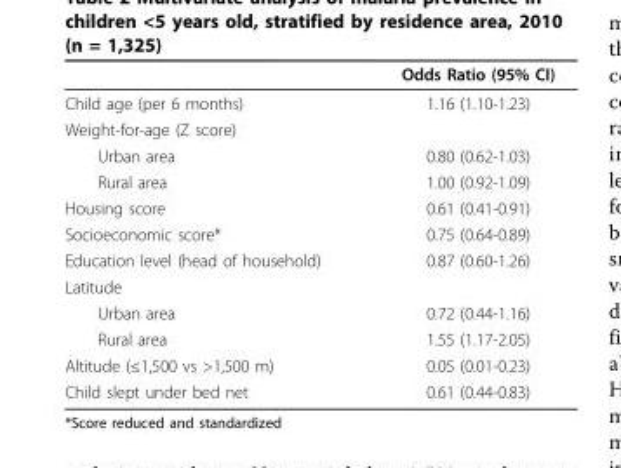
<table><thead><tr><td></td><td>Odds Ratio (95% CI)</td></tr></thead><tbody><tr><td>Child age (per 6 months)</td><td>1.16 (1.10-1.23)</td></tr><tr><td colspan="2">Weight-for-age (Z score)</td></tr><tr><td>Urban area</td><td>0.80 (0.62-1.03)</td></tr><tr><td>Rural area</td><td>1.00 (0.92-1.09)</td></tr><tr><td>Housing score</td><td>0.61 (0.41-0.91)</td></tr><tr><td>Socioeconomic score*</td><td>0.75 (0.64-0.89)</td></tr><tr><td>Education level (head of household)</td><td>0.87 (0.60-1.26)</td></tr><tr><td colspan="2">Latitude</td></tr><tr><td>Urban area</td><td>0.72 (0.44-1.16)</td></tr><tr><td>Rural area</td><td>1.55 (1.17-2.05)</td></tr><tr><td>Altitude (≤1,500 vs &gt;1,500 m)</td><td>0.05 (0.01-0.23)</td></tr><tr><td>Child slept under bed net</td><td>0.61 (0.44-0.83)</td></tr></tbody></table>